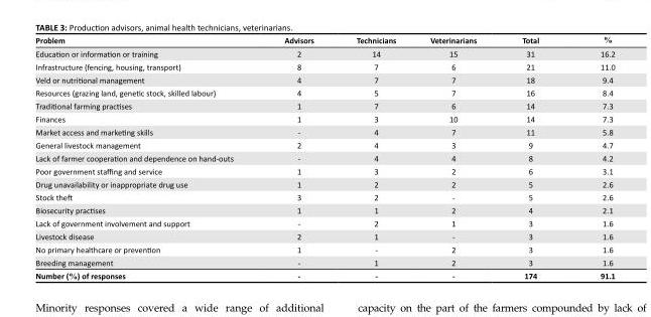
<table><thead><tr><td>Problem</td><td>Advisors</td><td>Technicians</td><td>Veterinarians</td><td>Total</td><td>%</td></tr></thead><tbody><tr><td>Education or information or training</td><td>2</td><td>14</td><td>15</td><td>31</td><td>16.2</td></tr><tr><td>Infrastructure (fencing, housing, transport)</td><td>8</td><td>7</td><td>6</td><td>21</td><td>11.0</td></tr><tr><td>Veld or nutritional management</td><td>4</td><td>7</td><td>7</td><td>18</td><td>9.4</td></tr><tr><td>Resources (grazing land, genetic stock, skilled labour)</td><td>4</td><td>5</td><td>7</td><td>16</td><td>8.4</td></tr><tr><td>Traditional farming practises</td><td>1</td><td>7</td><td>6</td><td>14</td><td>7.3</td></tr><tr><td>Finances</td><td>1</td><td>3</td><td>10</td><td>14</td><td>7.3</td></tr><tr><td>Market access and marketing skills</td><td>-</td><td>4</td><td>7</td><td>11</td><td>5.8</td></tr><tr><td>General livestock management</td><td>2</td><td>4</td><td>3</td><td>9</td><td>4.7</td></tr><tr><td>Lack of farmer cooperation and dependence on hand-outs</td><td>-</td><td>4</td><td>4</td><td>8</td><td>4.2</td></tr><tr><td>Poor government staffing and service</td><td>1</td><td>3</td><td>2</td><td>6</td><td>3.1</td></tr><tr><td>Drug unavailability or inappropriate drug use</td><td>1</td><td>2</td><td>2</td><td>5</td><td>2.6</td></tr><tr><td>Stock theft</td><td>3</td><td>2</td><td>-</td><td>5</td><td>2.6</td></tr><tr><td>Biosecurity practises</td><td>1</td><td>1</td><td>2</td><td>4</td><td>2.1</td></tr><tr><td>Lack of government involvement and support</td><td>-</td><td>2</td><td>1</td><td>3</td><td>1.6</td></tr><tr><td>Livestock disease</td><td>2</td><td>1</td><td>-</td><td>3</td><td>1.6</td></tr><tr><td>No primary healthcare or prevention</td><td>1</td><td>-</td><td>2</td><td>3</td><td>1.6</td></tr><tr><td>Breeding management</td><td>-</td><td>1</td><td>2</td><td>3</td><td>1.6</td></tr><tr><td>Number (%) of responses</td><td>-</td><td>-</td><td>-</td><td>174</td><td>91.1</td></tr></tbody></table>